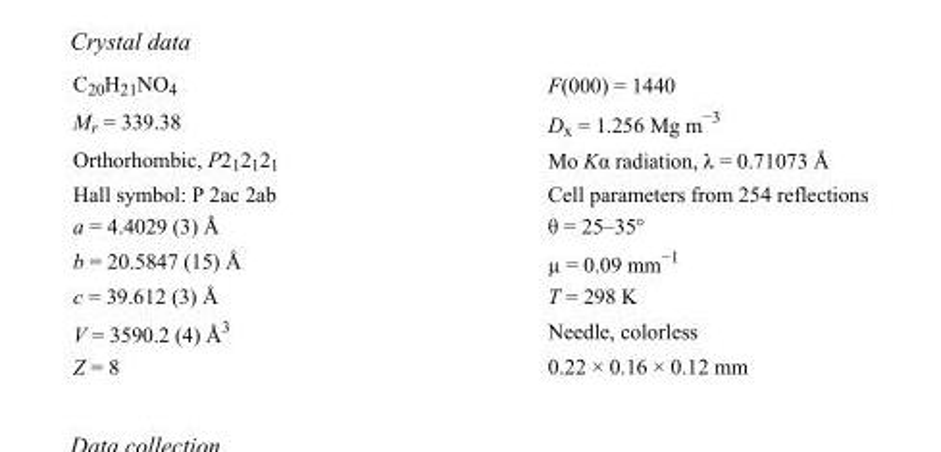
<table><tbody><tr><td>C<sub>20</sub>H<sub>21</sub>NO<sub>4</sub></td><td>F(000) = 1440</td></tr><tr><td>M<sub>r</sub> = 339.38</td><td>D<sub>x</sub> = 1.256 Mg m<sup>−3</sup></td></tr><tr><td>Orthorhombic, P2<sub>1</sub>2<sub>1</sub>2<sub>1</sub></td><td>Mo Kα radiation, λ = 0.71073 Å</td></tr><tr><td>Hall symbol: P 2ac 2ab</td><td>Cell parameters from 254 reflections</td></tr><tr><td>a = 4.4029 (3) Å</td><td>θ = 25–35°</td></tr><tr><td>b = 20.5847 (15) Å</td><td>µ = 0.09 mm<sup>−1</sup></td></tr><tr><td>c = 39.612 (3) Å</td><td>T = 298 K</td></tr><tr><td>V = 3590.2 (4) Å<sup>3</sup></td><td>Needle, colorless</td></tr><tr><td>Z = 8</td><td>0.22 × 0.16 × 0.12 mm</td></tr></tbody></table>